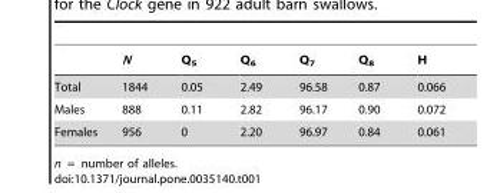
<table><thead><tr><td></td><td>N</td><td>Q<sub>5</sub></td><td>Q<sub>6</sub></td><td>Q<sub>7</sub></td><td>Q<sub>8</sub></td><td>H</td></tr></thead><tbody><tr><td>Total</td><td>1844</td><td>0.05</td><td>2.49</td><td>96.58</td><td>0.87</td><td>0.066</td></tr><tr><td>Males</td><td>888</td><td>0.11</td><td>2.82</td><td>96.17</td><td>0.90</td><td>0.072</td></tr><tr><td>Females</td><td>956</td><td>0</td><td>2.20</td><td>96.97</td><td>0.84</td><td>0.061</td></tr></tbody></table>